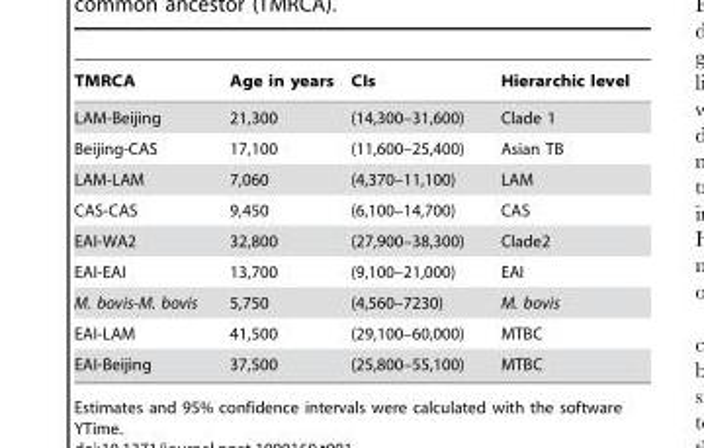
<table><thead><tr><td>TMRCA</td><td>Age in years</td><td>CIs</td><td>Hierarchic level</td></tr></thead><tbody><tr><td>LAM-Beijing</td><td>21,300</td><td>(14,300–31,600)</td><td>Clade 1</td></tr><tr><td>Beijing-CAS</td><td>17,100</td><td>(11,600–25,400)</td><td>Asian TB</td></tr><tr><td>LAM-LAM</td><td>7,060</td><td>(4,370–11,100)</td><td>LAM</td></tr><tr><td>CAS-CAS</td><td>9,450</td><td>(6,100–14,700)</td><td>CAS</td></tr><tr><td>EAI-WA2</td><td>32,800</td><td>(27,900–38,300)</td><td>Clade2</td></tr><tr><td>EAI-EAI</td><td>13,700</td><td>(9,100–21,000)</td><td>EAI</td></tr><tr><td>M. bovis-M. bovis</td><td>5,750</td><td>(4,560–7230)</td><td>M. bovis</td></tr><tr><td>EAI-LAM</td><td>41,500</td><td>(29,100–60,000)</td><td>MTBC</td></tr><tr><td>EAI-Beijing</td><td>37,500</td><td>(25,800–55,100)</td><td>MTBC</td></tr></tbody></table>